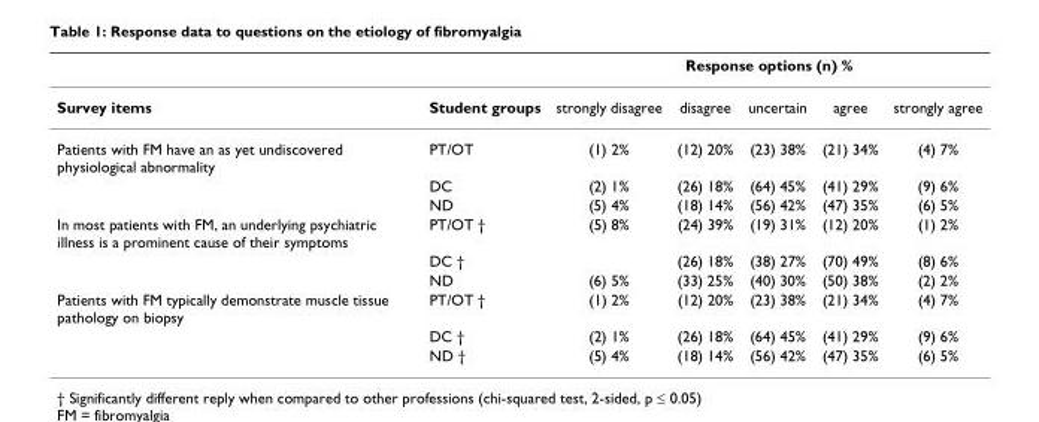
<table><thead><tr><td rowspan="2">Survey items</td><td rowspan="2">Student groups</td><td colspan="5">Response options (n) %</td></tr><tr><td>strongly disagree</td><td>disagree</td><td>uncertain</td><td>agree</td><td>strongly agree</td></tr></thead><tbody><tr><td rowspan="3">Patients with FM have an as yet undiscovered physiological abnormality</td><td>PT/OT</td><td>(1) 2%</td><td>(12) 20%</td><td>(23) 38%</td><td>(21) 34%</td><td>(4) 7%</td></tr><tr><td>DC</td><td>(2) 1%</td><td>(26) 18%</td><td>(64) 45%</td><td>(41) 29%</td><td>(9) 6%</td></tr><tr><td>ND</td><td>(5) 4%</td><td>(18) 14%</td><td>(56) 42%</td><td>(47) 35%</td><td>(6) 5%</td></tr><tr><td rowspan="3">In most patients with FM, an underlying psychiatric illness is a prominent cause of their symptoms</td><td>PT/OT †</td><td>(5) 8%</td><td>(24) 39%</td><td>(19) 31%</td><td>(12) 20%</td><td>(1) 2%</td></tr><tr><td>DC †</td><td></td><td>(26) 18%</td><td>(38) 27%</td><td>(70) 49%</td><td>(8) 6%</td></tr><tr><td>ND</td><td>(6) 5%</td><td>(33) 25%</td><td>(40) 30%</td><td>(50) 38%</td><td>(2) 2%</td></tr><tr><td rowspan="3">Patients with FM typically demonstrate muscle tissue pathology on biopsy</td><td>PT/OT †</td><td>(1) 2%</td><td>(12) 20%</td><td>(23) 38%</td><td>(21) 34%</td><td>(4) 7%</td></tr><tr><td>DC †</td><td>(2) 1%</td><td>(26) 18%</td><td>(64) 45%</td><td>(41) 29%</td><td>(9) 6%</td></tr><tr><td>ND †</td><td>(5) 4%</td><td>(18) 14%</td><td>(56) 42%</td><td>(47) 35%</td><td>(6) 5%</td></tr></tbody></table>